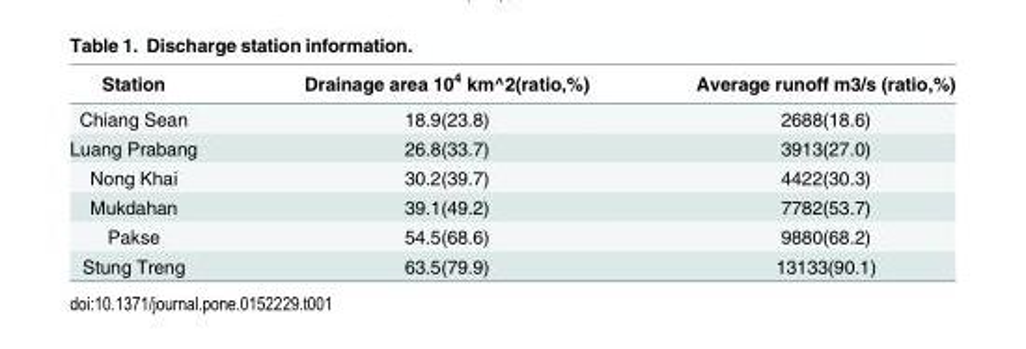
<table><thead><tr><td>Station</td><td>Drainage area 10<sup>4</sup> km^2(ratio,%)</td><td>Average runoff m3/s (ratio,%)</td></tr></thead><tbody><tr><td>Chiang Sean</td><td>18.9(23.8)</td><td>2688(18.6)</td></tr><tr><td>Luang Prabang</td><td>26.8(33.7)</td><td>3913(27.0)</td></tr><tr><td>Nong Khai</td><td>30.2(39.7)</td><td>4422(30.3)</td></tr><tr><td>Mukdahan</td><td>39.1(49.2)</td><td>7782(53.7)</td></tr><tr><td>Pakse</td><td>54.5(68.6)</td><td>9880(68.2)</td></tr><tr><td>Stung Treng</td><td>63.5(79.9)</td><td>13133(90.1)</td></tr></tbody></table>